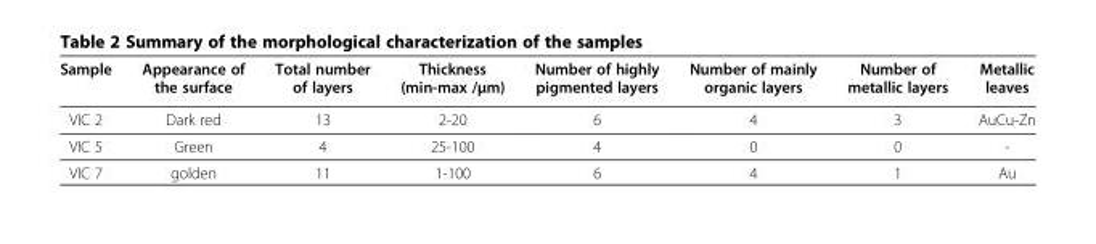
<table><thead><tr><td>Sample</td><td>Appearance of the surface</td><td>Total number of layers</td><td>Thickness (min-max /μm)</td><td>Number of highly pigmented layers</td><td>Number of mainly organic layers</td><td>Number of metallic layers</td><td>Metallic leaves</td></tr></thead><tbody><tr><td>VIC 2</td><td>Dark red</td><td>13</td><td>2-20</td><td>6</td><td>4</td><td>3</td><td>AuCu-Zn</td></tr><tr><td>VIC 5</td><td>Green</td><td>4</td><td>25-100</td><td>4</td><td>0</td><td>0</td><td>-</td></tr><tr><td>VIC 7</td><td>golden</td><td>11</td><td>1-100</td><td>6</td><td>4</td><td>1</td><td>Au</td></tr></tbody></table>